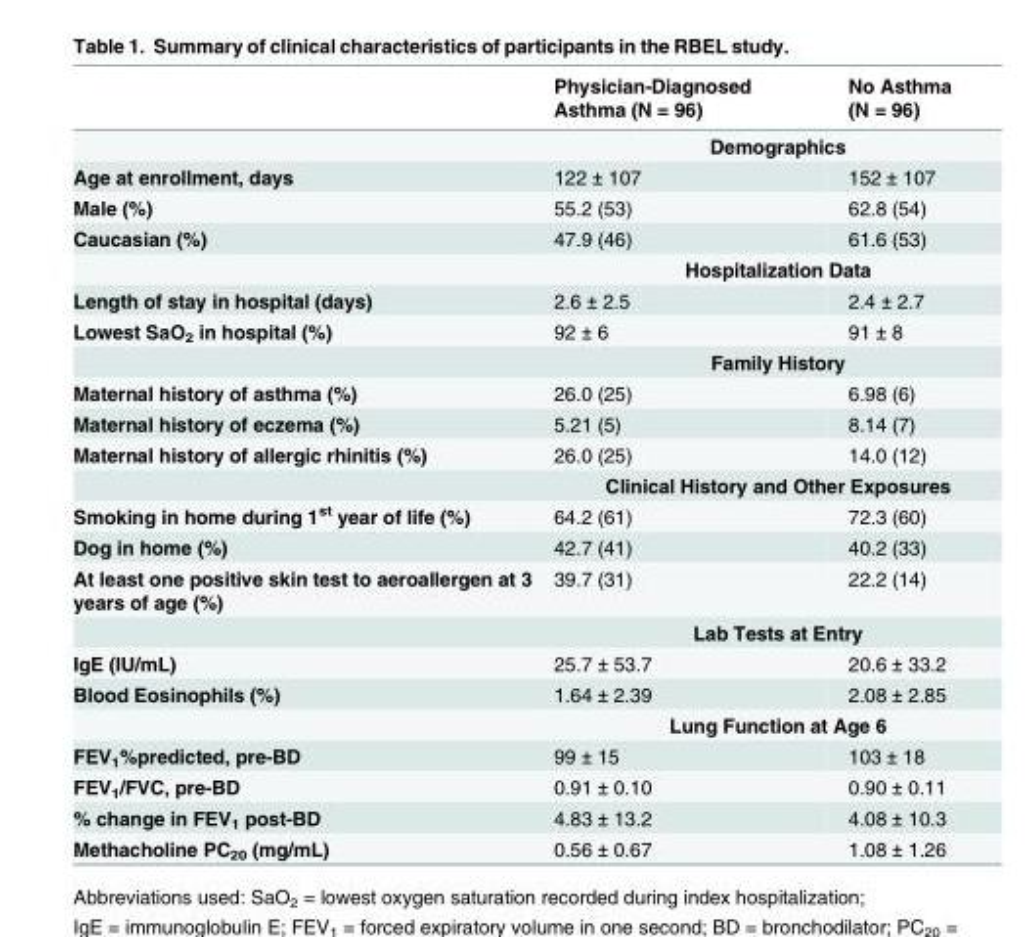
<table><thead><tr><td></td><td>Physician-Diagnosed Asthma (N = 96)</td><td>No Asthma (N = 96)</td></tr></thead><tbody><tr><td></td><td colspan="2">Demographics</td></tr><tr><td>Age at enrollment, days</td><td>122 ± 107</td><td>152 ± 107</td></tr><tr><td>Male (%)</td><td>55.2 (53)</td><td>62.8 (54)</td></tr><tr><td rowspan="2">Caucasian (%)</td><td>47.9 (46)</td><td>61.6 (53)</td></tr><tr><td colspan="2">Hospitalization Data</td></tr><tr><td>Length of stay in hospital (days)</td><td>2.6 ± 2.5</td><td>2.4 ± 2.7</td></tr><tr><td rowspan="2">Lowest SaO<sub>2</sub> in hospital (%)</td><td>92 ± 6</td><td>91 ± 8</td></tr><tr><td colspan="2">Family History</td></tr><tr><td>Maternal history of asthma (%)</td><td>26.0 (25)</td><td>6.98 (6)</td></tr><tr><td>Maternal history of eczema (%)</td><td>5.21 (5)</td><td>8.14 (7)</td></tr><tr><td rowspan="2">Maternal history of allergic rhinitis (%)</td><td>26.0 (25)</td><td>14.0 (12)</td></tr><tr><td colspan="2">Clinical History and Other Exposures</td></tr><tr><td>Smoking in home during 1<sup>st</sup> year of life (%)</td><td>64.2 (61)</td><td>72.3 (60)</td></tr><tr><td>Dog in home (%)</td><td>42.7 (41)</td><td>40.2 (33)</td></tr><tr><td rowspan="2">At least one positive skin test to aeroallergen at 3 years of age (%)</td><td>39.7 (31)</td><td>22.2 (14)</td></tr><tr><td colspan="2">Lab Tests at Entry</td></tr><tr><td>IgE (IU/mL)</td><td>25.7 ± 53.7</td><td>20.6 ± 33.2</td></tr><tr><td rowspan="2">Blood Eosinophils (%)</td><td>1.64 ± 2.39</td><td>2.08 ± 2.85</td></tr><tr><td colspan="2">Lung Function at Age 6</td></tr><tr><td>FEV<sub>1</sub>%predicted, pre-BD</td><td>99 ± 15</td><td>103 ± 18</td></tr><tr><td>FEV<sub>1</sub>/FVC, pre-BD</td><td>0.91 ± 0.10</td><td>0.90 ± 0.11</td></tr><tr><td>% change in FEV<sub>1</sub> post-BD</td><td>4.83 ± 13.2</td><td>4.08 ± 10.3</td></tr><tr><td>Methacholine PC<sub>20</sub> (mg/mL)</td><td>0.56 ± 0.67</td><td>1.08 ± 1.26</td></tr></tbody></table>